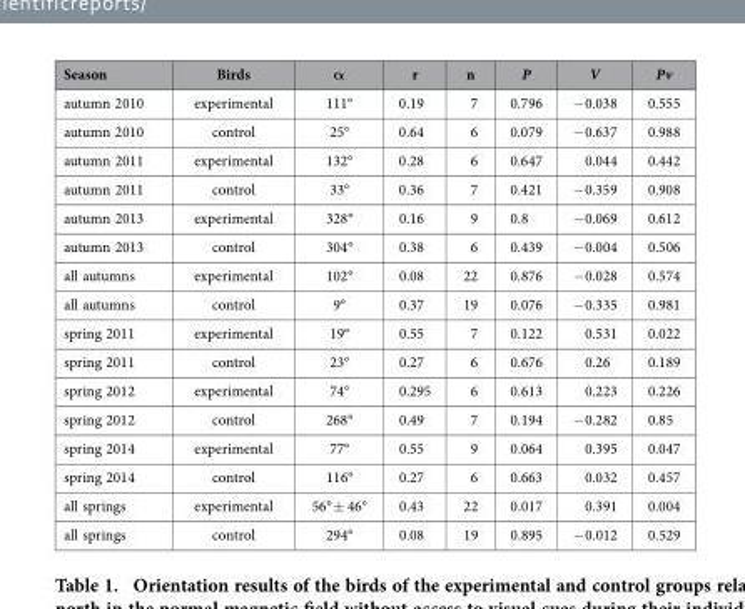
<table><thead><tr><td>Season</td><td>Birds</td><td>α</td><td>r</td><td>n</td><td>P</td><td>V</td><td>Pv</td></tr></thead><tbody><tr><td>autumn 2010</td><td>experimental</td><td>111°</td><td>0.19</td><td>7</td><td>0.796</td><td>− 0.038</td><td>0.555</td></tr><tr><td>autumn 2010</td><td>control</td><td>25°</td><td>0.64</td><td>6</td><td>0.079</td><td>− 0.637</td><td>0.988</td></tr><tr><td>autumn 2011</td><td>experimental</td><td>132°</td><td>0.28</td><td>6</td><td>0.647</td><td>0.044</td><td>0.442</td></tr><tr><td>autumn 2011</td><td>control</td><td>33°</td><td>0.36</td><td>7</td><td>0.421</td><td>− 0.359</td><td>0.908</td></tr><tr><td>autumn 2013</td><td>experimental</td><td>328°</td><td>0.16</td><td>9</td><td>0.8</td><td>− 0.069</td><td>0.612</td></tr><tr><td>autumn 2013</td><td>control</td><td>304°</td><td>0.38</td><td>6</td><td>0.439</td><td>− 0.004</td><td>0.506</td></tr><tr><td>all autumns</td><td>experimental</td><td>102°</td><td>0.08</td><td>22</td><td>0.876</td><td>− 0.028</td><td>0.574</td></tr><tr><td>all autumns</td><td>control</td><td>9°</td><td>0.37</td><td>19</td><td>0.076</td><td>− 0.335</td><td>0.981</td></tr><tr><td>spring 2011</td><td>experimental</td><td>19°</td><td>0.55</td><td>7</td><td>0.122</td><td>0.531</td><td>0.022</td></tr><tr><td>spring 2011</td><td>control</td><td>23°</td><td>0.27</td><td>6</td><td>0.676</td><td>0.26</td><td>0.189</td></tr><tr><td>spring 2012</td><td>experimental</td><td>74°</td><td>0.295</td><td>6</td><td>0.613</td><td>0.223</td><td>0.226</td></tr><tr><td>spring 2012</td><td>control</td><td>268°</td><td>0.49</td><td>7</td><td>0.194</td><td>− 0.282</td><td>0.85</td></tr><tr><td>spring 2014</td><td>experimental</td><td>77°</td><td>0.55</td><td>9</td><td>0.064</td><td>0.395</td><td>0.047</td></tr><tr><td>spring 2014</td><td>control</td><td>116°</td><td>0.27</td><td>6</td><td>0.663</td><td>0.032</td><td>0.457</td></tr><tr><td>all springs</td><td>experimental</td><td>56° ± 46°</td><td>0.43</td><td>22</td><td>0.017</td><td>0.391</td><td>0.004</td></tr><tr><td>all springs</td><td>control</td><td>294°</td><td>0.08</td><td>19</td><td>0.895</td><td>− 0.012</td><td>0.529</td></tr></tbody></table>